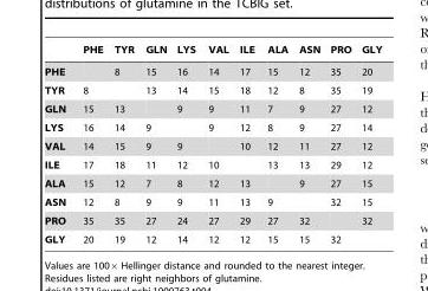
<table><thead><tr><td></td><td>PHE</td><td>TYR</td><td>GLN</td><td>LYS</td><td>VAL</td><td>ILE</td><td>ALA</td><td>ASN</td><td>PRO</td><td>GLY</td></tr></thead><tbody><tr><td>PHE</td><td></td><td>8</td><td>15</td><td>16</td><td>14</td><td>17</td><td>15</td><td>12</td><td>35</td><td>20</td></tr><tr><td>TYR</td><td>8</td><td></td><td>13</td><td>14</td><td>15</td><td>18</td><td>12</td><td>8</td><td>35</td><td>19</td></tr><tr><td>GLN</td><td>15</td><td>13</td><td></td><td>9</td><td>9</td><td>11</td><td>7</td><td>9</td><td>27</td><td>12</td></tr><tr><td>LYS</td><td>16</td><td>14</td><td>9</td><td></td><td>9</td><td>12</td><td>8</td><td>9</td><td>27</td><td>14</td></tr><tr><td>VAL</td><td>14</td><td>15</td><td>9</td><td>9</td><td></td><td>10</td><td>12</td><td>11</td><td>27</td><td>12</td></tr><tr><td>ILE</td><td>17</td><td>18</td><td>11</td><td>12</td><td>10</td><td></td><td>13</td><td>13</td><td>29</td><td>12</td></tr><tr><td>ALA</td><td>15</td><td>12</td><td>7</td><td>8</td><td>12</td><td>13</td><td></td><td>9</td><td>27</td><td>15</td></tr><tr><td>ASN</td><td>12</td><td>8</td><td>9</td><td>9</td><td>11</td><td>13</td><td>9</td><td></td><td>32</td><td>15</td></tr><tr><td>PRO</td><td>35</td><td>35</td><td>27</td><td>24</td><td>27</td><td>29</td><td>27</td><td>32</td><td></td><td>32</td></tr><tr><td>GLY</td><td>20</td><td>19</td><td>12</td><td>14</td><td>12</td><td>12</td><td>15</td><td>15</td><td>32</td><td></td></tr></tbody></table>